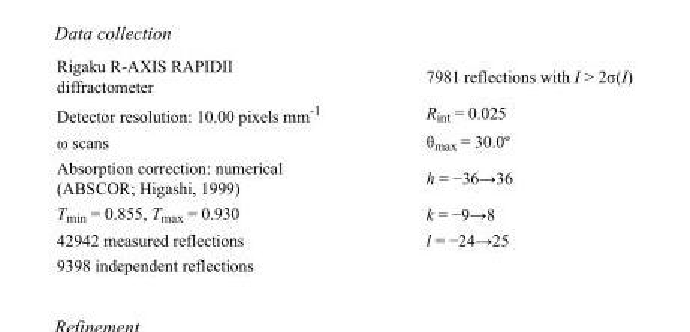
<table><tbody><tr><td>Rigaku R-AXIS RAPIDII diffractometer</td><td>7981 reflections with I &gt; 2σ(I)</td></tr><tr><td>Detector resolution: 10.00 pixels mm<sup>-1</sup></td><td>R<sub>int</sub> = 0.025</td></tr><tr><td>ω scans</td><td>θmax = 30.0º</td></tr><tr><td>Absorption correction: numerical (ABSCOR; Higashi, 1999)</td><td>h = −36→36</td></tr><tr><td>T<sub>min</sub> = 0.855, T<sub>max</sub> = 0.930</td><td>k = −9→8</td></tr><tr><td>42942 measured reflections</td><td>l = −24→25</td></tr><tr><td>9398 independent reflections</td><td></td></tr></tbody></table>